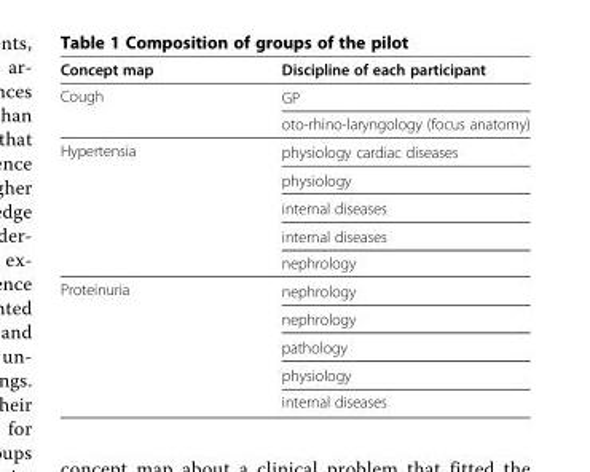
<table><thead><tr><td>Concept map</td><td>Discipline of each participant</td></tr></thead><tbody><tr><td rowspan="2">Cough</td><td>GP</td></tr><tr><td>oto-rhino-laryngology (focus anatomy)</td></tr><tr><td rowspan="5">Hypertensia</td><td>physiology cardiac diseases</td></tr><tr><td>physiology</td></tr><tr><td>internal diseases</td></tr><tr><td>internal diseases</td></tr><tr><td>nephrology</td></tr><tr><td rowspan="5">Proteinuria</td><td>nephrology</td></tr><tr><td>nephrology</td></tr><tr><td>pathology</td></tr><tr><td>physiology</td></tr><tr><td>internal diseases</td></tr></tbody></table>